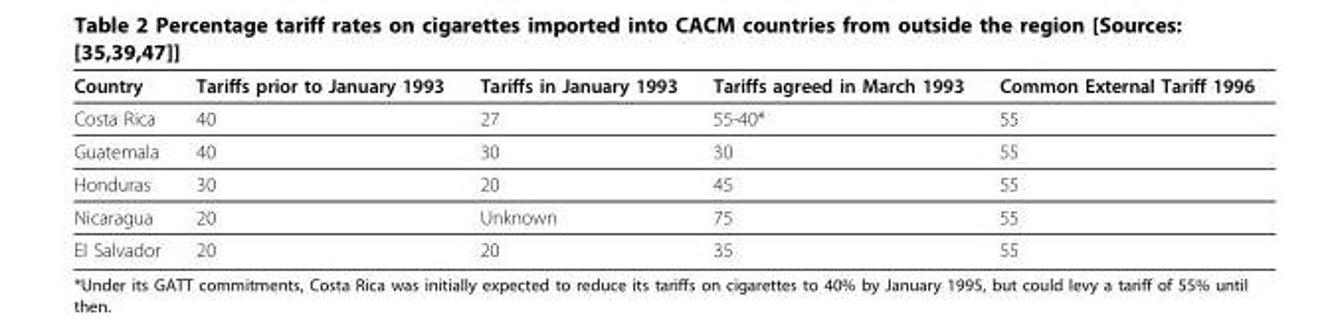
<table><thead><tr><td>Country</td><td>Tariffs prior to January 1993</td><td>Tariffs in January 1993</td><td>Tariffs agreed in March 1993</td><td>Common External Tariff 1996</td></tr></thead><tbody><tr><td>Costa Rica</td><td>40</td><td>27</td><td>55-40*</td><td>55</td></tr><tr><td>Guatemala</td><td>40</td><td>30</td><td>30</td><td>55</td></tr><tr><td>Honduras</td><td>30</td><td>20</td><td>45</td><td>55</td></tr><tr><td>Nicaragua</td><td>20</td><td>Unknown</td><td>75</td><td>55</td></tr><tr><td>El Salvador</td><td>20</td><td>20</td><td>35</td><td>55</td></tr></tbody></table>